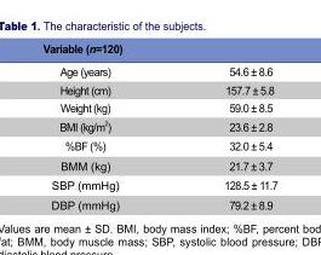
<table><thead><tr><td>Variable (n=120)</td><td></td></tr></thead><tbody><tr><td>Age (years)</td><td>54.6 ± 8.6</td></tr><tr><td>Height (cm)</td><td>157.7 ± 5.8</td></tr><tr><td>Weight (kg)</td><td>59.0 ± 8.5</td></tr><tr><td>BMI (kg/m <sup>2</sup>)</td><td>23.6 ± 2.8</td></tr><tr><td>%BF (%)</td><td>32.0 ± 5.4</td></tr><tr><td>BMM (kg)</td><td>21.7 ± 3.7</td></tr><tr><td>SBP (mmHg)</td><td>128.5 ± 11.7</td></tr><tr><td>DBP (mmHg)</td><td>79.2 ± 8.9</td></tr></tbody></table>